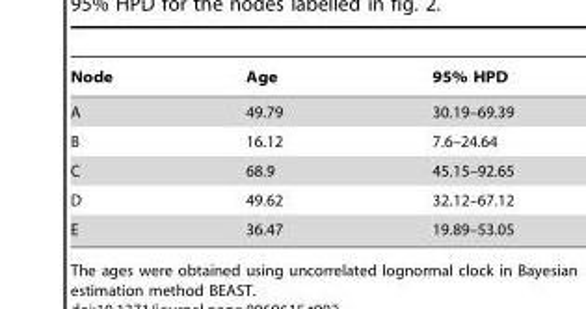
<table><thead><tr><td>Node</td><td>Age</td><td>95% HPD</td></tr></thead><tbody><tr><td>A</td><td>49.79</td><td>30.19–69.39</td></tr><tr><td>B</td><td>16.12</td><td>7.6–24.64</td></tr><tr><td>C</td><td>68.9</td><td>45.15–92.65</td></tr><tr><td>D</td><td>49.62</td><td>32.12–67.12</td></tr><tr><td>E</td><td>36.47</td><td>19.89–53.05</td></tr></tbody></table>